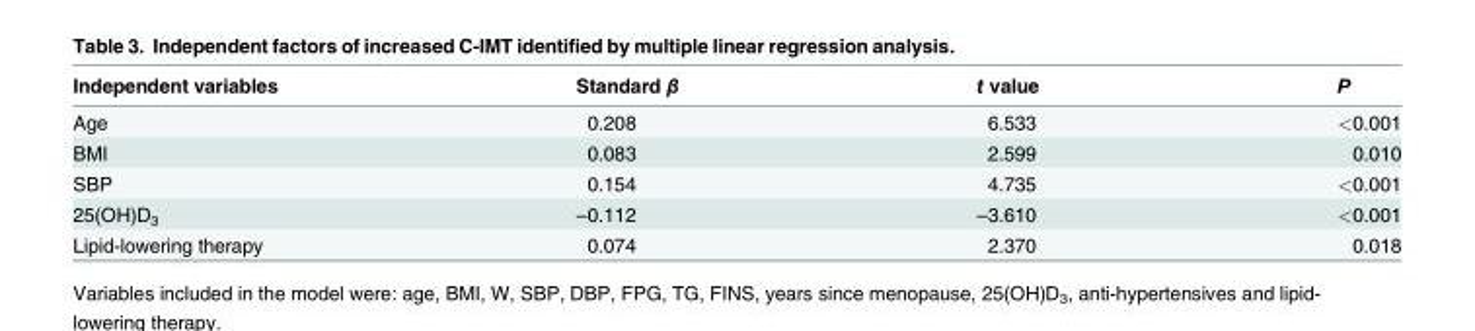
<table><thead><tr><td>Independent variables</td><td>Standard β</td><td>t value</td><td>P</td></tr></thead><tbody><tr><td>Age</td><td>0.208</td><td>6.533</td><td>&lt;0.001</td></tr><tr><td>BMI</td><td>0.083</td><td>2.599</td><td>0.010</td></tr><tr><td>SBP</td><td>0.154</td><td>4.735</td><td>&lt;0.001</td></tr><tr><td>25(OH)D<sub>3</sub></td><td>–0.112</td><td>–3.610</td><td>&lt;0.001</td></tr><tr><td>Lipid-lowering therapy</td><td>0.074</td><td>2.370</td><td>0.018</td></tr></tbody></table>